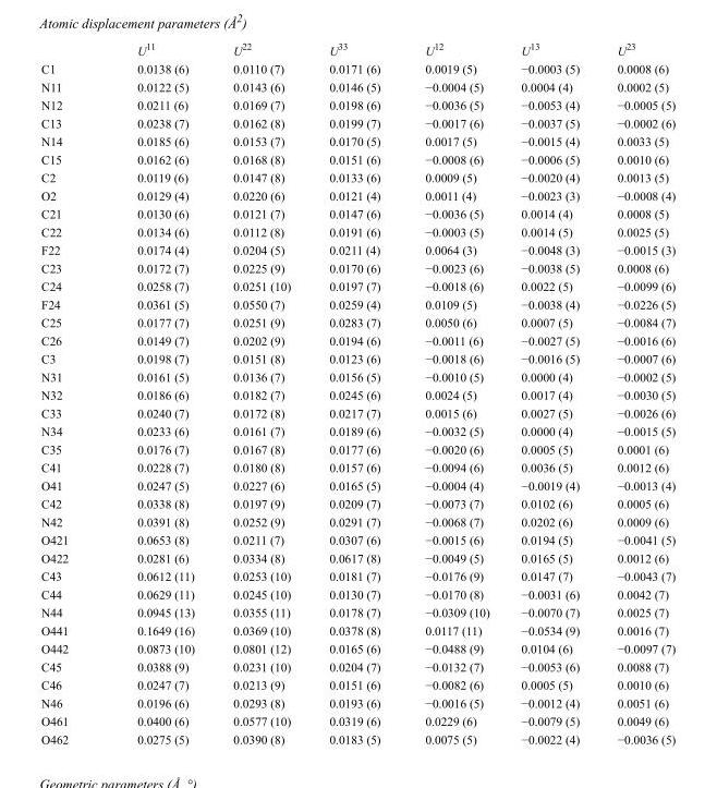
<table><thead><tr><td></td><td>U<sup>11</sup></td><td>U<sup>22</sup></td><td>U<sup>33</sup></td><td>U<sup>12</sup></td><td>U<sup>13</sup></td><td>U<sup>23</sup></td></tr></thead><tbody><tr><td>C1</td><td>0.0138 (6)</td><td>0.0110 (7)</td><td>0.0171 (6)</td><td>0.0019 (5)</td><td>−0.0003 (5)</td><td>0.0008 (6)</td></tr><tr><td>N11</td><td>0.0122 (5)</td><td>0.0143 (6)</td><td>0.0146 (5)</td><td>−0.0004 (5)</td><td>0.0004 (4)</td><td>0.0002 (5)</td></tr><tr><td>N12</td><td>0.0211 (6)</td><td>0.0169 (7)</td><td>0.0198 (6)</td><td>−0.0036 (5)</td><td>−0.0053 (4)</td><td>−0.0005 (5)</td></tr><tr><td>C13</td><td>0.0238 (7)</td><td>0.0162 (8)</td><td>0.0199 (7)</td><td>−0.0017 (6)</td><td>−0.0037 (5)</td><td>−0.0002 (6)</td></tr><tr><td>N14</td><td>0.0185 (6)</td><td>0.0153 (7)</td><td>0.0170 (5)</td><td>0.0017 (5)</td><td>−0.0015 (4)</td><td>0.0033 (5)</td></tr><tr><td>C15</td><td>0.0162 (6)</td><td>0.0168 (8)</td><td>0.0151 (6)</td><td>−0.0008 (6)</td><td>−0.0006 (5)</td><td>0.0010 (6)</td></tr><tr><td>C2</td><td>0.0119 (6)</td><td>0.0147 (8)</td><td>0.0133 (6)</td><td>0.0009 (5)</td><td>−0.0020 (4)</td><td>0.0013 (5)</td></tr><tr><td>O2</td><td>0.0129 (4)</td><td>0.0220 (6)</td><td>0.0121 (4)</td><td>0.0011 (4)</td><td>−0.0023 (3)</td><td>−0.0008 (4)</td></tr><tr><td>C21</td><td>0.0130 (6)</td><td>0.0121 (7)</td><td>0.0147 (6)</td><td>−0.0036 (5)</td><td>0.0014 (4)</td><td>0.0008 (5)</td></tr><tr><td>C22</td><td>0.0134 (6)</td><td>0.0112 (8)</td><td>0.0191 (6)</td><td>−0.0003 (5)</td><td>0.0014 (5)</td><td>0.0025 (5)</td></tr><tr><td>F22</td><td>0.0174 (4)</td><td>0.0204 (5)</td><td>0.0211 (4)</td><td>0.0064 (3)</td><td>−0.0048 (3)</td><td>−0.0015 (3)</td></tr><tr><td>C23</td><td>0.0172 (7)</td><td>0.0225 (9)</td><td>0.0170 (6)</td><td>−0.0023 (6)</td><td>−0.0038 (5)</td><td>0.0008 (6)</td></tr><tr><td>C24</td><td>0.0258 (7)</td><td>0.0251 (10)</td><td>0.0197 (7)</td><td>−0.0018 (6)</td><td>0.0022 (5)</td><td>−0.0099 (6)</td></tr><tr><td>F24</td><td>0.0361 (5)</td><td>0.0550 (7)</td><td>0.0259 (4)</td><td>0.0109 (5)</td><td>−0.0038 (4)</td><td>−0.0226 (5)</td></tr><tr><td>C25</td><td>0.0177 (7)</td><td>0.0251 (9)</td><td>0.0283 (7)</td><td>0.0050 (6)</td><td>0.0007 (5)</td><td>−0.0084 (7)</td></tr><tr><td>C26</td><td>0.0149 (7)</td><td>0.0202 (9)</td><td>0.0194 (6)</td><td>−0.0011 (6)</td><td>−0.0027 (5)</td><td>−0.0016 (6)</td></tr><tr><td>C3</td><td>0.0198 (7)</td><td>0.0151 (8)</td><td>0.0123 (6)</td><td>−0.0018 (6)</td><td>−0.0016 (5)</td><td>−0.0007 (6)</td></tr><tr><td>N31</td><td>0.0161 (5)</td><td>0.0136 (7)</td><td>0.0156 (5)</td><td>−0.0010 (5)</td><td>0.0000 (4)</td><td>−0.0002 (5)</td></tr><tr><td>N32</td><td>0.0186 (6)</td><td>0.0182 (7)</td><td>0.0245 (6)</td><td>0.0024 (5)</td><td>0.0017 (4)</td><td>−0.0030 (5)</td></tr><tr><td>C33</td><td>0.0240 (7)</td><td>0.0172 (8)</td><td>0.0217 (7)</td><td>0.0015 (6)</td><td>0.0027 (5)</td><td>−0.0026 (6)</td></tr><tr><td>N34</td><td>0.0233 (6)</td><td>0.0161 (7)</td><td>0.0189 (6)</td><td>−0.0032 (5)</td><td>0.0000 (4)</td><td>−0.0015 (5)</td></tr><tr><td>C35</td><td>0.0176 (7)</td><td>0.0167 (8)</td><td>0.0177 (6)</td><td>−0.0020 (6)</td><td>0.0005 (5)</td><td>0.0001 (6)</td></tr><tr><td>C41</td><td>0.0228 (7)</td><td>0.0180 (8)</td><td>0.0157 (6)</td><td>−0.0094 (6)</td><td>0.0036 (5)</td><td>0.0012 (6)</td></tr><tr><td>O41</td><td>0.0247 (5)</td><td>0.0227 (6)</td><td>0.0165 (5)</td><td>−0.0004 (4)</td><td>−0.0019 (4)</td><td>−0.0013 (4)</td></tr><tr><td>C42</td><td>0.0338 (8)</td><td>0.0197 (9)</td><td>0.0209 (7)</td><td>−0.0073 (7)</td><td>0.0102 (6)</td><td>0.0005 (6)</td></tr><tr><td>N42</td><td>0.0391 (8)</td><td>0.0252 (9)</td><td>0.0291 (7)</td><td>−0.0068 (7)</td><td>0.0202 (6)</td><td>0.0009 (6)</td></tr><tr><td>O421</td><td>0.0653 (8)</td><td>0.0211 (7)</td><td>0.0307 (6)</td><td>−0.0015 (6)</td><td>0.0194 (5)</td><td>−0.0041 (5)</td></tr><tr><td>O422</td><td>0.0281 (6)</td><td>0.0334 (8)</td><td>0.0617 (8)</td><td>−0.0049 (5)</td><td>0.0165 (5)</td><td>0.0012 (6)</td></tr><tr><td>C43</td><td>0.0612 (11)</td><td>0.0253 (10)</td><td>0.0181 (7)</td><td>−0.0176 (9)</td><td>0.0147 (7)</td><td>−0.0043 (7)</td></tr><tr><td>C44</td><td>0.0629 (11)</td><td>0.0245 (10)</td><td>0.0130 (7)</td><td>−0.0170 (8)</td><td>−0.0031 (6)</td><td>0.0042 (7)</td></tr><tr><td>N44</td><td>0.0945 (13)</td><td>0.0355 (11)</td><td>0.0178 (7)</td><td>−0.0309 (10)</td><td>−0.0070 (7)</td><td>0.0025 (7)</td></tr><tr><td>O441</td><td>0.1649 (16)</td><td>0.0369 (10)</td><td>0.0378 (8)</td><td>0.0117 (11)</td><td>−0.0534 (9)</td><td>0.0016 (7)</td></tr><tr><td>O442</td><td>0.0873 (10)</td><td>0.0801 (12)</td><td>0.0165 (6)</td><td>−0.0488 (9)</td><td>0.0104 (6)</td><td>−0.0097 (7)</td></tr><tr><td>C45</td><td>0.0388 (9)</td><td>0.0231 (10)</td><td>0.0204 (7)</td><td>−0.0132 (7)</td><td>−0.0053 (6)</td><td>0.0088 (7)</td></tr><tr><td>C46</td><td>0.0247 (7)</td><td>0.0213 (9)</td><td>0.0151 (6)</td><td>−0.0082 (6)</td><td>0.0005 (5)</td><td>0.0010 (6)</td></tr><tr><td>N46</td><td>0.0196 (6)</td><td>0.0293 (8)</td><td>0.0193 (6)</td><td>−0.0016 (5)</td><td>−0.0012 (4)</td><td>0.0051 (6)</td></tr><tr><td>O461</td><td>0.0400 (6)</td><td>0.0577 (10)</td><td>0.0319 (6)</td><td>0.0229 (6)</td><td>−0.0079 (5)</td><td>0.0049 (6)</td></tr><tr><td>O462</td><td>0.0275 (5)</td><td>0.0390 (8)</td><td>0.0183 (5)</td><td>0.0075 (5)</td><td>−0.0022 (4)</td><td>−0.0036 (5)</td></tr></tbody></table>